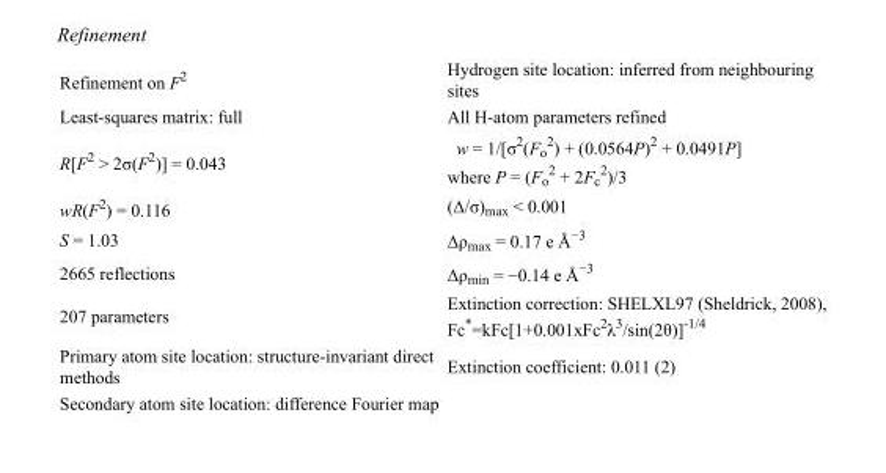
<table><tbody><tr><td>Refinement on F<sup>2</sup></td><td>Hydrogen site location: inferred from neighbouring sites</td></tr><tr><td>Least-squares matrix: full</td><td>All H-atom parameters refined</td></tr><tr><td>R[F<sup>2</sup> &gt; 2σ(F<sup>2</sup>)] = 0.043</td><td>w = 1/[σ<sup>2</sup>(F<sub>o</sub> <sup>2</sup>) + (0.0564P)<sup>2</sup> + 0.0491P] where P = (F<sub>o</sub> <sup>2</sup> + 2F<sub>c</sub> <sup>2</sup>)/3</td></tr><tr><td>wR(F<sup>2</sup>) = 0.116</td><td>(Δ/σ)<sub>max</sub> &lt; 0.001</td></tr><tr><td>S = 1.03</td><td>Δρ<sub>max</sub> = 0.17 e Å<sup>−3</sup></td></tr><tr><td>2665 reflections</td><td>Δρ<sub>min</sub> = −0.14 e Å<sup>−3</sup></td></tr><tr><td>207 parameters</td><td>Extinction correction: SHELXL97 (Sheldrick, 2008), Fc*=kFc[1+0.001xFc<sup>2</sup>λ<sup>3</sup>/sin(2θ)]<sup>-1/4</sup></td></tr><tr><td>Primary atom site location: structure-invariant direct methods</td><td>Extinction coefficient: 0.011 (2)</td></tr><tr><td>Secondary atom site location: difference Fourier map</td><td></td></tr></tbody></table>